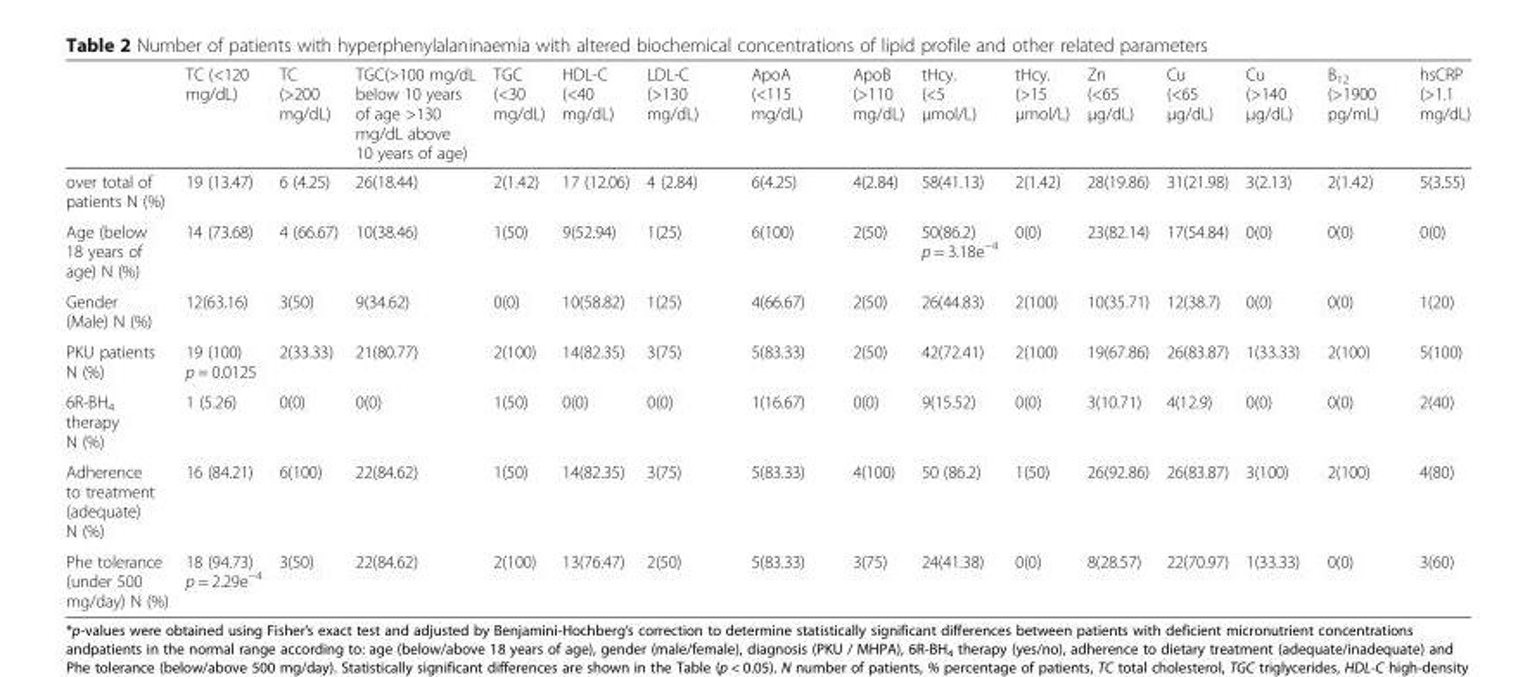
<table><thead><tr><td></td><td>TC (&lt;120 mg/dL)</td><td>TC (&gt;200 mg/dL)</td><td>TGC(&gt;100 mg/dL below 10 years of age &gt;130 mg/dL above 10 years of age)</td><td>TGC (&lt;30 mg/dL)</td><td>HDL-C (&lt;40 mg/dL)</td><td>LDL-C (&gt;130 mg/dL)</td><td>ApoA (&lt;115 mg/dL)</td><td>ApoB (&gt;110 mg/dL)</td><td>tHcy. (&lt;5 μmol/L)</td><td>tHcy. (&gt;15 μmol/L)</td><td>Zn (&lt;65 μg/dL)</td><td>Cu (&lt;65 μg/dL)</td><td>Cu (&gt;140 μg/dL)</td><td>B<sub>12</sub> (&gt;1900 pg/mL)</td><td>hsCRP (&gt;1.1 mg/dL)</td></tr></thead><tbody><tr><td>over total of patients N (%)</td><td>19 (13.47)</td><td>6 (4.25)</td><td>26(18.44)</td><td>2(1.42)</td><td>17 (12.06)</td><td>4 (2.84)</td><td>6(4.25)</td><td>4(2.84)</td><td>58(41.13)</td><td>2(1.42)</td><td>28(19.86)</td><td>31(21.98)</td><td>3(2.13)</td><td>2(1.42)</td><td>5(3.55)</td></tr><tr><td>Age (below 18 years of age) N (%)</td><td>14 (73.68)</td><td>4 (66.67)</td><td>10(38.46)</td><td>1(50)</td><td>9(52.94)</td><td>1(25)</td><td>6(100)</td><td>2(50)</td><td>50(86.2) p = 3.18e<sup>−4</sup></td><td>0(0)</td><td>23(82.14)</td><td>17(54.84)</td><td>0(0)</td><td>0(0)</td><td>0(0)</td></tr><tr><td>Gender (Male) N (%)</td><td>12(63.16)</td><td>3(50)</td><td>9(34.62)</td><td>0(0)</td><td>10(58.82)</td><td>1(25)</td><td>4(66.67)</td><td>2(50)</td><td>26(44.83)</td><td>2(100)</td><td>10(35.71)</td><td>12(38.7)</td><td>0(0)</td><td>0(0)</td><td>1(20)</td></tr><tr><td>PKU patients N (%)</td><td>19 (100) p = 0.0125</td><td>2(33.33)</td><td>21(80.77)</td><td>2(100)</td><td>14(82.35)</td><td>3(75)</td><td>5(83.33)</td><td>2(50)</td><td>42(72.41)</td><td>2(100)</td><td>19(67.86)</td><td>26(83.87)</td><td>1(33.33)</td><td>2(100)</td><td>5(100)</td></tr><tr><td>6R-BH<sub>4</sub> therapy N (%)</td><td>1 (5.26)</td><td>0(0)</td><td>0(0)</td><td>1(50)</td><td>0(0)</td><td>0(0)</td><td>1(16.67)</td><td>0(0)</td><td>9(15.52)</td><td>0(0)</td><td>3(10.71)</td><td>4(12.9)</td><td>0(0)</td><td>0(0)</td><td>2(40)</td></tr><tr><td>Adherence to treatment (adequate) N (%)</td><td>16 (84.21)</td><td>6(100)</td><td>22(84.62)</td><td>1(50)</td><td>14(82.35)</td><td>3(75)</td><td>5(83.33)</td><td>4(100)</td><td>50 (86.2)</td><td>1(50)</td><td>26(92.86)</td><td>26(83.87)</td><td>3(100)</td><td>2(100)</td><td>4(80)</td></tr><tr><td>Phe tolerance (under 500 mg/day) N (%)</td><td>18 (94.73) p = 2.29e<sup>−4</sup></td><td>3(50)</td><td>22(84.62)</td><td>2(100)</td><td>13(76.47)</td><td>2(50)</td><td>5(83.33)</td><td>3(75)</td><td>24(41.38)</td><td>0(0)</td><td>8(28.57)</td><td>22(70.97)</td><td>1(33.33)</td><td>0(0)</td><td>3(60)</td></tr></tbody></table>